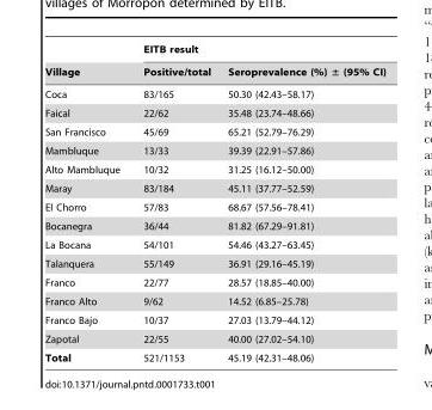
<table><thead><tr><td rowspan="2">Village</td><td colspan="2">EITB result</td></tr><tr><td>Positive/total</td><td>Seroprevalence (%) ± (95% CI)</td></tr></thead><tbody><tr><td>Coca</td><td>83/165</td><td>50.30 (42.43–58.17)</td></tr><tr><td>Faical</td><td>22/62</td><td>35.48 (23.74–48.66)</td></tr><tr><td>San Francisco</td><td>45/69</td><td>65.21 (52.79–76.29)</td></tr><tr><td>Mambluque</td><td>13/33</td><td>39.39 (22.91–57.86)</td></tr><tr><td>Alto Mambluque</td><td>10/32</td><td>31.25 (16.12–50.00)</td></tr><tr><td>Maray</td><td>83/184</td><td>45.11 (37.77–52.59)</td></tr><tr><td>El Chorro</td><td>57/83</td><td>68.67 (57.56–78.41)</td></tr><tr><td>Bocanegra</td><td>36/44</td><td>81.82 (67.29–91.81)</td></tr><tr><td>La Bocana</td><td>54/101</td><td>54.46 (43.27–63.45)</td></tr><tr><td>Talanquera</td><td>55/149</td><td>36.91 (29.16–45.19)</td></tr><tr><td>Franco</td><td>22/77</td><td>28.57 (18.85–40.00)</td></tr><tr><td>Franco Alto</td><td>9/62</td><td>14.52 (6.85–25.78)</td></tr><tr><td>Franco Bajo</td><td>10/37</td><td>27.03 (13.79–44.12)</td></tr><tr><td>Zapotal</td><td>22/55</td><td>40.00 (27.02–54.10)</td></tr><tr><td>Total</td><td>521/1153</td><td>45.19 (42.31–48.06)</td></tr></tbody></table>